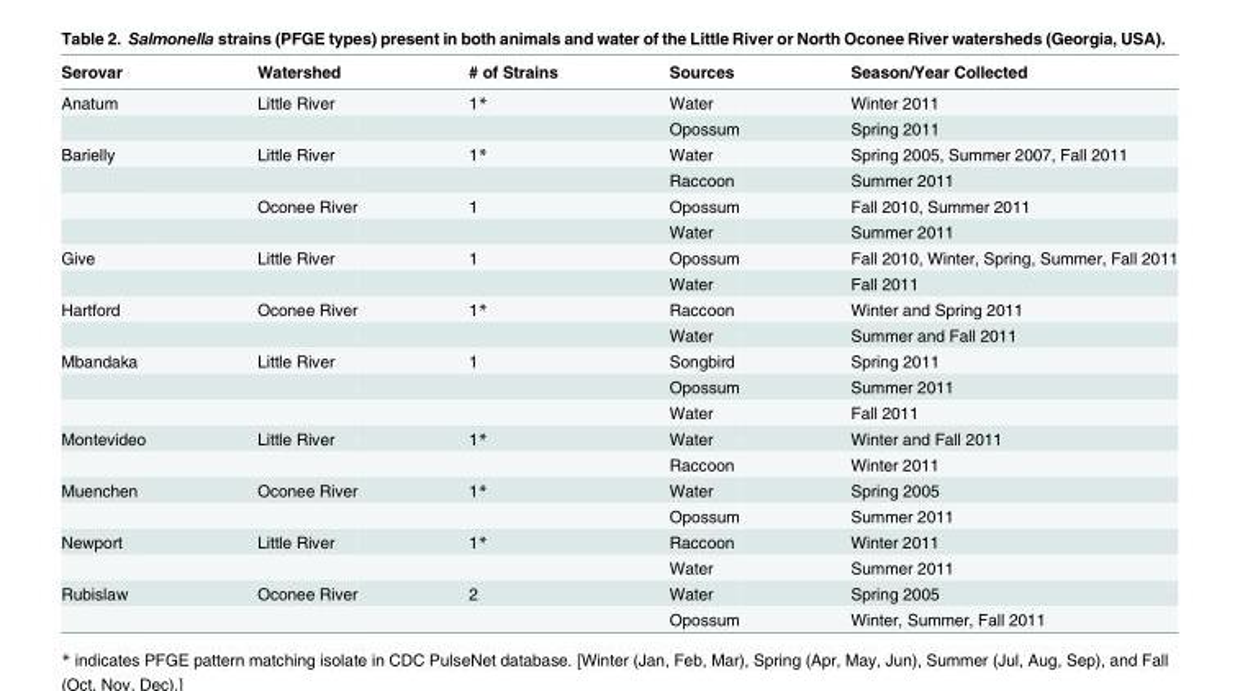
<table><thead><tr><td>Serovar</td><td>Watershed</td><td># of Strains</td><td>Sources</td><td>Season/Year Collected</td></tr></thead><tbody><tr><td rowspan="2">Anatum</td><td>Little River</td><td>1*</td><td>Water</td><td>Winter 2011</td></tr><tr><td></td><td></td><td>Opossum</td><td>Spring 2011</td></tr><tr><td rowspan="4">Barielly</td><td>Little River</td><td>1*</td><td>Water</td><td>Spring 2005, Summer 2007, Fall 2011</td></tr><tr><td></td><td></td><td>Raccoon</td><td>Summer 2011</td></tr><tr><td>Oconee River</td><td>1</td><td>Opossum</td><td>Fall 2010, Summer 2011</td></tr><tr><td></td><td></td><td>Water</td><td>Summer 2011</td></tr><tr><td rowspan="2">Give</td><td>Little River</td><td>1</td><td>Opossum</td><td>Fall 2010, Winter, Spring, Summer, Fall 2011</td></tr><tr><td></td><td></td><td>Water</td><td>Fall 2011</td></tr><tr><td rowspan="2">Hartford</td><td>Oconee River</td><td>1*</td><td>Raccoon</td><td>Winter and Spring 2011</td></tr><tr><td></td><td></td><td>Water</td><td>Summer and Fall 2011</td></tr><tr><td rowspan="3">Mbandaka</td><td>Little River</td><td>1</td><td>Songbird</td><td>Spring 2011</td></tr><tr><td></td><td></td><td>Opossum</td><td>Summer 2011</td></tr><tr><td></td><td></td><td>Water</td><td>Fall 2011</td></tr><tr><td rowspan="2">Montevideo</td><td>Little River</td><td>1*</td><td>Water</td><td>Winter and Fall 2011</td></tr><tr><td></td><td></td><td>Raccoon</td><td>Winter 2011</td></tr><tr><td rowspan="2">Muenchen</td><td>Oconee River</td><td>1*</td><td>Water</td><td>Spring 2005</td></tr><tr><td></td><td></td><td>Opossum</td><td>Summer 2011</td></tr><tr><td rowspan="2">Newport</td><td>Little River</td><td>1*</td><td>Raccoon</td><td>Winter 2011</td></tr><tr><td></td><td></td><td>Water</td><td>Summer 2011</td></tr><tr><td rowspan="2">Rubislaw</td><td>Oconee River</td><td>2</td><td>Water</td><td>Spring 2005</td></tr><tr><td></td><td></td><td>Opossum</td><td>Winter, Summer, Fall 2011</td></tr></tbody></table>